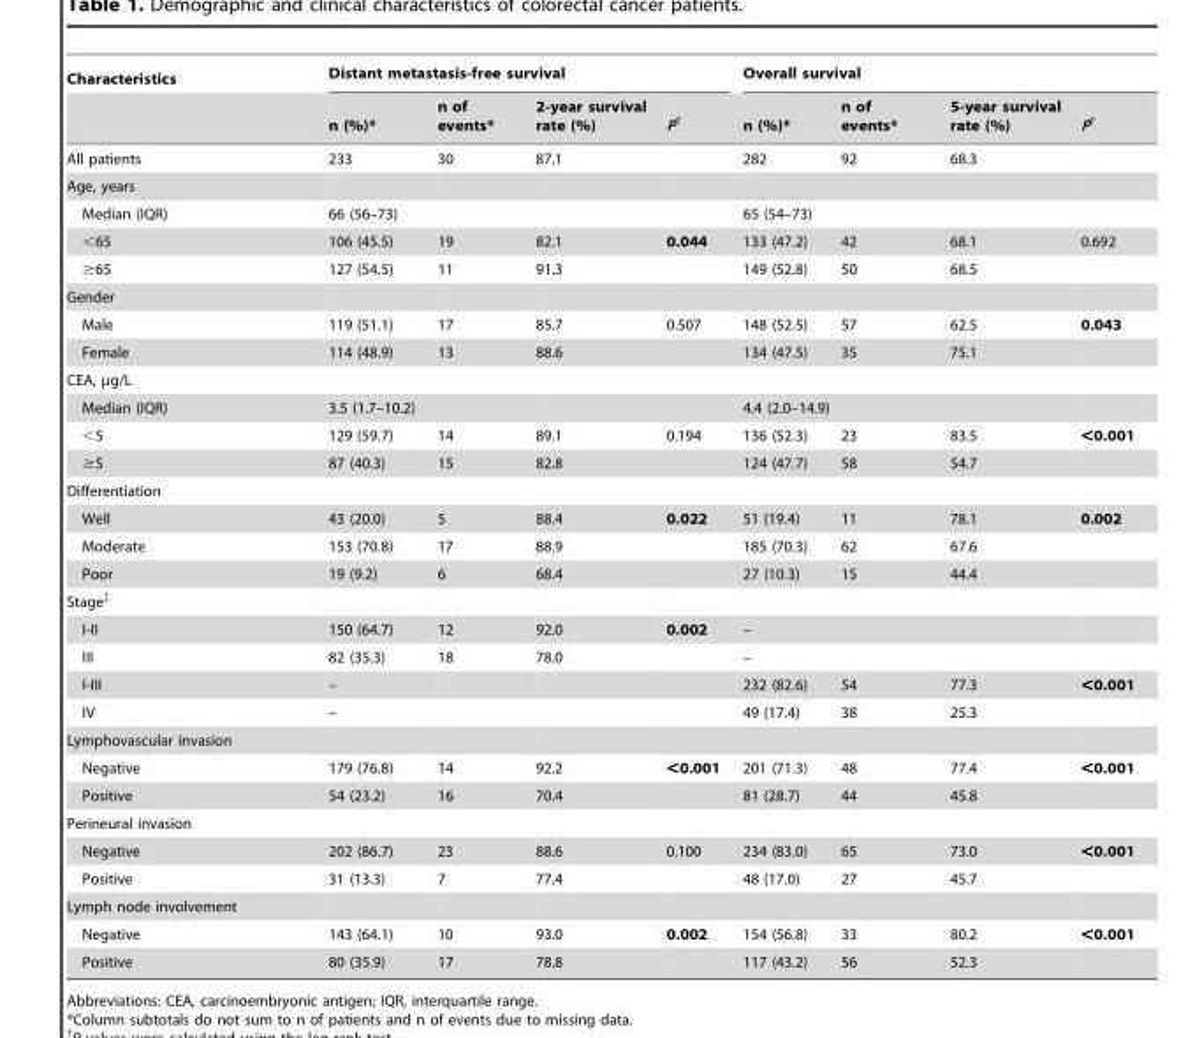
<table><thead><tr><td rowspan="2">Characteristics</td><td colspan="4">Distant metastasis-free survival</td><td colspan="4">Overall survival</td></tr><tr><td>n (%)*</td><td>n of events*</td><td>2-year survival rate (%)</td><td>P†</td><td>n (%)*</td><td>n of events*</td><td>5-year survival rate (%)</td><td>P†</td></tr></thead><tbody><tr><td>All patients</td><td>233</td><td>30</td><td>87.1</td><td></td><td>282</td><td>92</td><td>68.3</td><td></td></tr><tr><td colspan="9">Age, years</td></tr><tr><td>Median (IQR)</td><td>66 (56–73)</td><td></td><td></td><td></td><td>65 (54–73)</td><td></td><td></td><td></td></tr><tr><td>&lt;65</td><td>106 (45.5)</td><td>19</td><td>82.1</td><td>0.044</td><td>133 (47.2)</td><td>42</td><td>68.1</td><td>0.692</td></tr><tr><td>≥65</td><td>127 (54.5)</td><td>11</td><td>91.3</td><td></td><td>149 (52.8)</td><td>50</td><td>68.5</td><td></td></tr><tr><td colspan="9">Gender</td></tr><tr><td>Male</td><td>119 (51.1)</td><td>17</td><td>85.7</td><td>0.507</td><td>148 (52.5)</td><td>57</td><td>62.5</td><td>0.043</td></tr><tr><td>Female</td><td>114 (48.9)</td><td>13</td><td>88.6</td><td></td><td>134 (47.5)</td><td>35</td><td>75.1</td><td></td></tr><tr><td colspan="9">CEA, µg/L</td></tr><tr><td>Median (IQR)</td><td colspan="2">3.5 (1.7–10.2)</td><td></td><td></td><td colspan="2">4.4 (2.0–14.9)</td><td></td><td></td></tr><tr><td>&lt;5</td><td>129 (59.7)</td><td>14</td><td>89.1</td><td>0.194</td><td>136 (52.3)</td><td>23</td><td>83.5</td><td>&lt;0.001</td></tr><tr><td>≥5</td><td>87 (40.3)</td><td>15</td><td>82.8</td><td></td><td>124 (47.7)</td><td>58</td><td>54.7</td><td></td></tr><tr><td colspan="9">Differentiation</td></tr><tr><td>Well</td><td>43 (20.0)</td><td>5</td><td>88.4</td><td>0.022</td><td>51 (19.4)</td><td>11</td><td>78.1</td><td>0.002</td></tr><tr><td>Moderate</td><td>153 (70.8)</td><td>17</td><td>88.9</td><td></td><td>185 (70.3)</td><td>62</td><td>67.6</td><td></td></tr><tr><td>Poor</td><td>19 (9.2)</td><td>6</td><td>68.4</td><td></td><td>27 (10.3)</td><td>15</td><td>44.4</td><td></td></tr><tr><td colspan="9">Stage‡</td></tr><tr><td>I-II</td><td>150 (64.7)</td><td>12</td><td>92.0</td><td>0.002</td><td>–</td><td></td><td></td><td></td></tr><tr><td>III</td><td>82 (35.3)</td><td>18</td><td>78.0</td><td></td><td>–</td><td></td><td></td><td></td></tr><tr><td>I-III</td><td>–</td><td></td><td></td><td></td><td>232 (82.6)</td><td>54</td><td>77.3</td><td>&lt;0.001</td></tr><tr><td>IV</td><td>–</td><td></td><td></td><td></td><td>49 (17.4)</td><td>38</td><td>25.3</td><td></td></tr><tr><td colspan="9">Lymphovascular invasion</td></tr><tr><td>Negative</td><td>179 (76.8)</td><td>14</td><td>92.2</td><td>&lt;0.001</td><td>201 (71.3)</td><td>48</td><td>77.4</td><td>&lt;0.001</td></tr><tr><td>Positive</td><td>54 (23.2)</td><td>16</td><td>70.4</td><td></td><td>81 (28.7)</td><td>44</td><td>45.8</td><td></td></tr><tr><td colspan="9">Perineural invasion</td></tr><tr><td>Negative</td><td>202 (86.7)</td><td>23</td><td>88.6</td><td>0.100</td><td>234 (83.0)</td><td>65</td><td>73.0</td><td>&lt;0.001</td></tr><tr><td>Positive</td><td>31 (13.3)</td><td>7</td><td>77.4</td><td></td><td>48 (17.0)</td><td>27</td><td>45.7</td><td></td></tr><tr><td colspan="9">Lymph node involvement</td></tr><tr><td>Negative</td><td>143 (64.1)</td><td>10</td><td>93.0</td><td>0.002</td><td>154 (56.8)</td><td>33</td><td>80.2</td><td>&lt;0.001</td></tr><tr><td>Positive</td><td>80 (35.9)</td><td>17</td><td>78.8</td><td></td><td>117 (43.2)</td><td>56</td><td>52.3</td><td></td></tr></tbody></table>